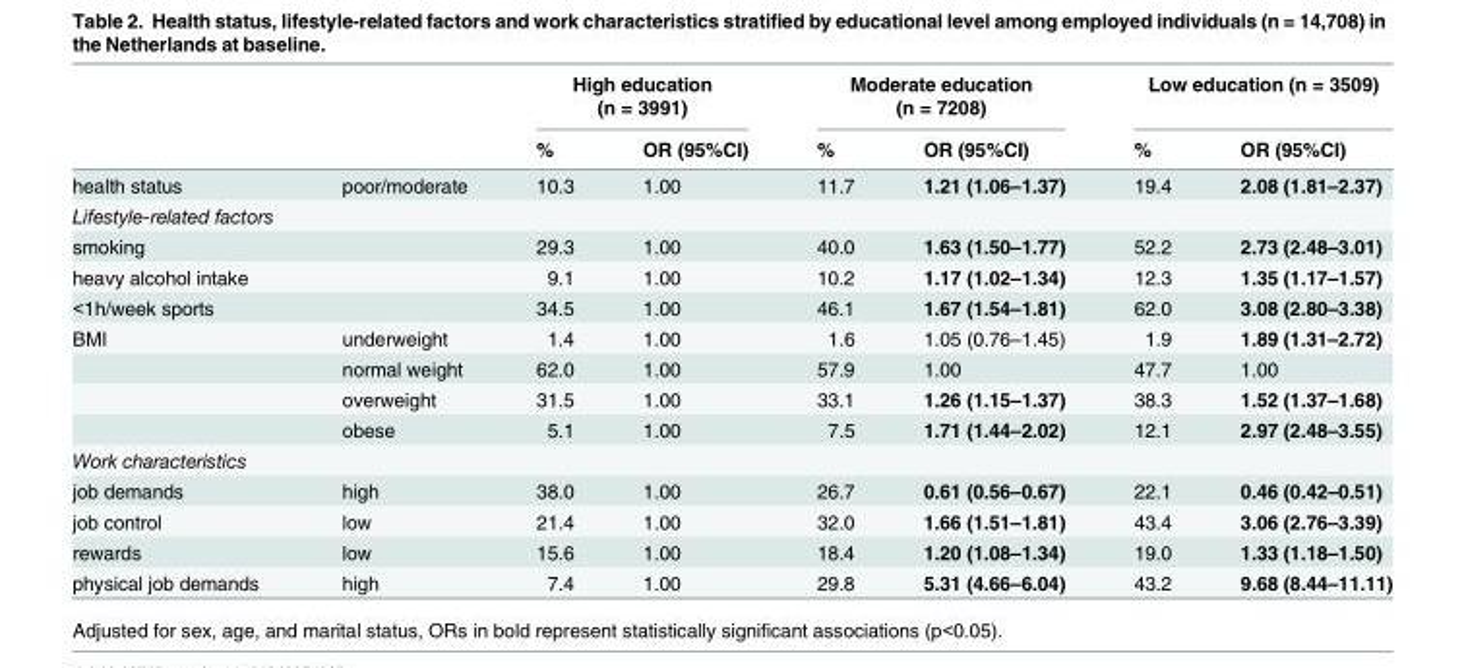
<table><thead><tr><td rowspan="2"></td><td rowspan="2"></td><td colspan="2">High education (n = 3991)</td><td colspan="2">Moderate education (n = 7208)</td><td colspan="2">Low education (n = 3509)</td></tr><tr><td>%</td><td>OR (95%CI)</td><td>%</td><td>OR (95%CI)</td><td>%</td><td>OR (95%CI)</td></tr></thead><tbody><tr><td>health status</td><td>poor/moderate</td><td>10.3</td><td>1.00</td><td>11.7</td><td>1.21 (1.06–1.37)</td><td>19.4</td><td>2.08 (1.81–2.37)</td></tr><tr><td colspan="8">Lifestyle-related factors</td></tr><tr><td>smoking</td><td></td><td>29.3</td><td>1.00</td><td>40.0</td><td>1.63 (1.50–1.77)</td><td>52.2</td><td>2.73 (2.48–3.01)</td></tr><tr><td>heavy alcohol intake</td><td></td><td>9.1</td><td>1.00</td><td>10.2</td><td>1.17 (1.02–1.34)</td><td>12.3</td><td>1.35 (1.17–1.57)</td></tr><tr><td>&lt;1h/week sports</td><td></td><td>34.5</td><td>1.00</td><td>46.1</td><td>1.67 (1.54–1.81)</td><td>62.0</td><td>3.08 (2.80–3.38)</td></tr><tr><td rowspan="4">BMI</td><td>underweight</td><td>1.4</td><td>1.00</td><td>1.6</td><td>1.05 (0.76–1.45)</td><td>1.9</td><td>1.89 (1.31–2.72)</td></tr><tr><td>normal weight</td><td>62.0</td><td>1.00</td><td>57.9</td><td>1.00</td><td>47.7</td><td>1.00</td></tr><tr><td>overweight</td><td>31.5</td><td>1.00</td><td>33.1</td><td>1.26 (1.15–1.37)</td><td>38.3</td><td>1.52 (1.37–1.68)</td></tr><tr><td>obese</td><td>5.1</td><td>1.00</td><td>7.5</td><td>1.71 (1.44–2.02)</td><td>12.1</td><td>2.97 (2.48–3.55)</td></tr><tr><td colspan="8">Work characteristics</td></tr><tr><td>job demands</td><td>high</td><td>38.0</td><td>1.00</td><td>26.7</td><td>0.61 (0.56–0.67)</td><td>22.1</td><td>0.46 (0.42–0.51)</td></tr><tr><td>job control</td><td>low</td><td>21.4</td><td>1.00</td><td>32.0</td><td>1.66 (1.51–1.81)</td><td>43.4</td><td>3.06 (2.76–3.39)</td></tr><tr><td>rewards</td><td>low</td><td>15.6</td><td>1.00</td><td>18.4</td><td>1.20 (1.08–1.34)</td><td>19.0</td><td>1.33 (1.18–1.50)</td></tr><tr><td>physical job demands</td><td>high</td><td>7.4</td><td>1.00</td><td>29.8</td><td>5.31 (4.66–6.04)</td><td>43.2</td><td>9.68 (8.44–11.11)</td></tr></tbody></table>